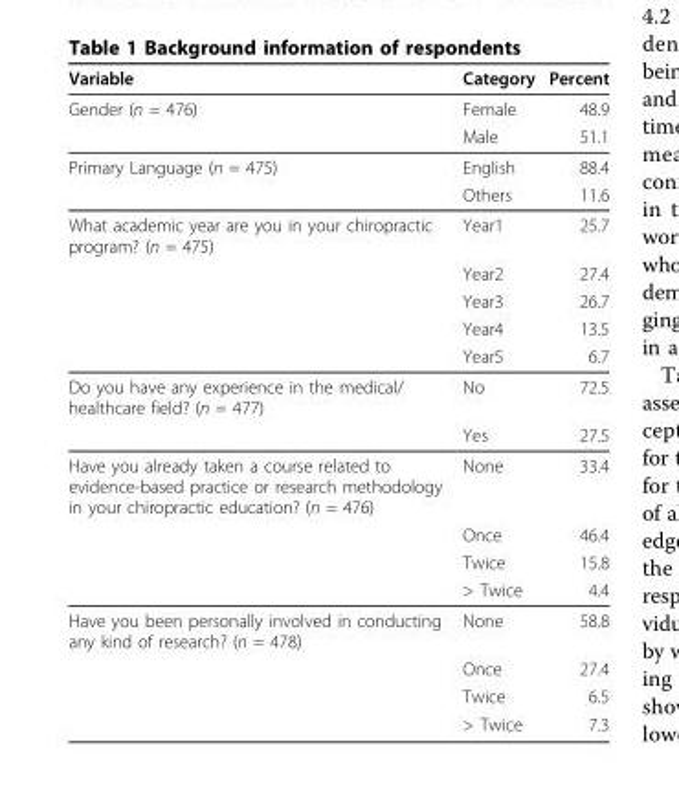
<table><thead><tr><td>Variable</td><td>Category</td><td>Percent</td></tr></thead><tbody><tr><td rowspan="2">Gender (n = 476)</td><td>Female</td><td>48.9</td></tr><tr><td>Male</td><td>51.1</td></tr><tr><td rowspan="2">Primary Language (n = 475)</td><td>English</td><td>88.4</td></tr><tr><td>Others</td><td>11.6</td></tr><tr><td rowspan="5">What academic year are you in your chiropractic program? (n = 475)</td><td>Year1</td><td>25.7</td></tr><tr><td>Year2</td><td>27.4</td></tr><tr><td>Year3</td><td>26.7</td></tr><tr><td>Year4</td><td>13.5</td></tr><tr><td>Year5</td><td>6.7</td></tr><tr><td rowspan="2">Do you have any experience in the medical/ healthcare field? (n = 477)</td><td>No</td><td>72.5</td></tr><tr><td>Yes</td><td>27.5</td></tr><tr><td rowspan="4">Have you already taken a course related to evidence-based practice or research methodology in your chiropractic education? (n = 476)</td><td>None</td><td>33.4</td></tr><tr><td>Once</td><td>46.4</td></tr><tr><td>Twice</td><td>15.8</td></tr><tr><td>&gt; Twice</td><td>4.4</td></tr><tr><td rowspan="4">Have you been personally involved in conducting any kind of research? (n = 478)</td><td>None</td><td>58.8</td></tr><tr><td>Once</td><td>27.4</td></tr><tr><td>Twice</td><td>6.5</td></tr><tr><td>&gt; Twice</td><td>7.3</td></tr></tbody></table>